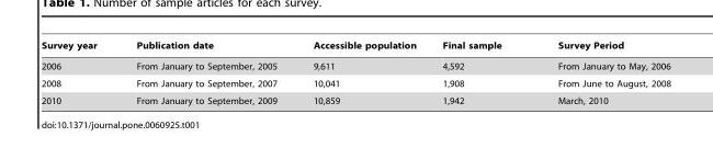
<table><thead><tr><td>Survey year</td><td>Publication date</td><td>Accessible population</td><td>Final sample</td><td>Survey Period</td></tr></thead><tbody><tr><td>2006</td><td>From January to September, 2005</td><td>9,611</td><td>4,592</td><td>From January to May, 2006</td></tr><tr><td>2008</td><td>From January to September, 2007</td><td>10,041</td><td>1,908</td><td>From June to August, 2008</td></tr><tr><td>2010</td><td>From January to September, 2009</td><td>10,859</td><td>1,942</td><td>March, 2010</td></tr></tbody></table>